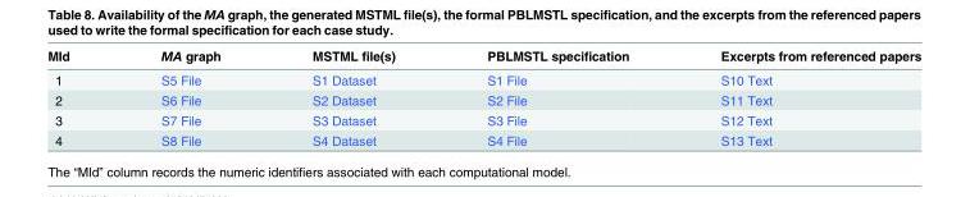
<table><thead><tr><td>MId</td><td>MA graph</td><td>MSTML file(s)</td><td>PBLMSTL specification</td><td>Excerpts from referenced papers</td></tr></thead><tbody><tr><td>1</td><td>S5 File</td><td>S1 Dataset</td><td>S1 File</td><td>S10 Text</td></tr><tr><td>2</td><td>S6 File</td><td>S2 Dataset</td><td>S2 File</td><td>S11 Text</td></tr><tr><td>3</td><td>S7 File</td><td>S3 Dataset</td><td>S3 File</td><td>S12 Text</td></tr><tr><td>4</td><td>S8 File</td><td>S4 Dataset</td><td>S4 File</td><td>S13 Text</td></tr></tbody></table>